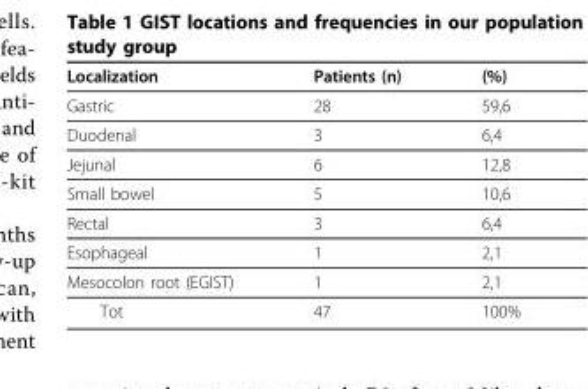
<table><thead><tr><td>Localization</td><td>Patients (n)</td><td>(%)</td></tr></thead><tbody><tr><td>Gastric</td><td>28</td><td>59,6</td></tr><tr><td>Duodenal</td><td>3</td><td>6,4</td></tr><tr><td>Jejunal</td><td>6</td><td>12,8</td></tr><tr><td>Small bowel</td><td>5</td><td>10,6</td></tr><tr><td>Rectal</td><td>3</td><td>6,4</td></tr><tr><td>Esophageal</td><td>1</td><td>2,1</td></tr><tr><td>Mesocolon root (EGIST)</td><td>1</td><td>2,1</td></tr><tr><td>Tot</td><td>47</td><td>100%</td></tr></tbody></table>